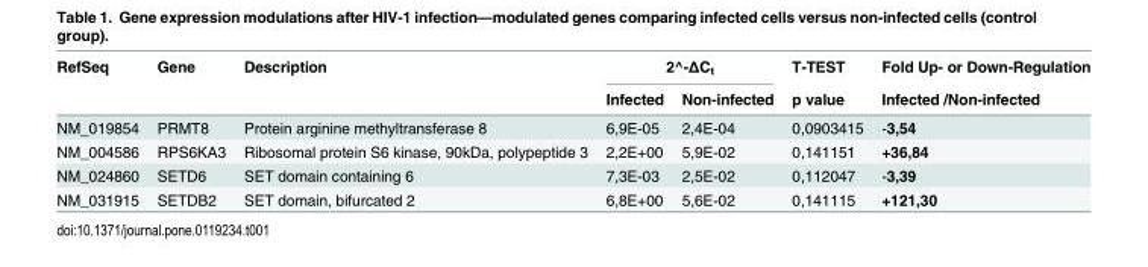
<table><thead><tr><td rowspan="2">RefSeq</td><td rowspan="2">Gene</td><td rowspan="2">Description</td><td colspan="2">2^-ΔC<sub>t</sub></td><td rowspan="2">T-TEST p value</td><td rowspan="2">Fold Up- or Down-Regulation Infected /Non-infected</td></tr><tr><td>Infected</td><td>Non-infected</td></tr></thead><tbody><tr><td>NM_019854</td><td>PRMT8</td><td>Protein arginine methyltransferase 8</td><td>6,9E-05</td><td>2,4E-04</td><td>0,0903415</td><td>-3,54</td></tr><tr><td>NM_004586</td><td>RPS6KA3</td><td>Ribosomal protein S6 kinase, 90kDa, polypeptide 3</td><td>2,2E+00</td><td>5,9E-02</td><td>0,141151</td><td>+36,84</td></tr><tr><td>NM_024860</td><td>SETD6</td><td>SET domain containing 6</td><td>7,3E-03</td><td>2,5E-02</td><td>0,112047</td><td>-3,39</td></tr><tr><td>NM_031915</td><td>SETDB2</td><td>SET domain, bifurcated 2</td><td>6,8E+00</td><td>5,6E-02</td><td>0,141115</td><td>+121,30</td></tr></tbody></table>